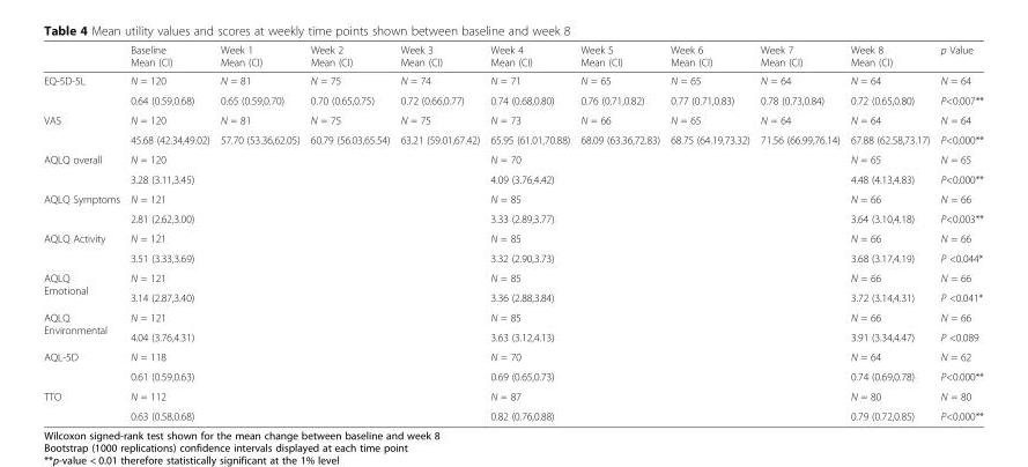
<table><thead><tr><td></td><td>Baseline Mean (CI)</td><td>Week 1 Mean (CI)</td><td>Week 2 Mean (CI)</td><td>Week 3 Mean (CI)</td><td>Week 4 Mean (CI)</td><td>Week 5 Mean (CI)</td><td>Week 6 Mean (CI)</td><td>Week 7 Mean (CI)</td><td>Week 8 Mean (CI)</td><td>p Value</td></tr></thead><tbody><tr><td rowspan="2">EQ-5D-5L</td><td>N = 120</td><td>N = 81</td><td>N = 75</td><td>N = 74</td><td>N = 71</td><td>N = 65</td><td>N = 65</td><td>N = 64</td><td>N = 64</td><td>N = 64</td></tr><tr><td>0.64 (0.59,0.68)</td><td>0.65 (0.59,0.70)</td><td>0.70 (0.65,0.75)</td><td>0.72 (0.66,0.77)</td><td>0.74 (0.68,0.80)</td><td>0.76 (0.71,0.82)</td><td>0.77 (0.71,0.83)</td><td>0.78 (0.73,0.84)</td><td>0.72 (0.65,0.80)</td><td>P&lt;0.007**</td></tr><tr><td rowspan="2">VAS</td><td>N = 120</td><td>N = 81</td><td>N = 75</td><td>N = 75</td><td>N = 73</td><td>N = 66</td><td>N = 65</td><td>N = 64</td><td>N = 64</td><td>N = 64</td></tr><tr><td>45.68 (42.34,49.02)</td><td>57.70 (53.36,62.05)</td><td>60.79 (56.03,65.54)</td><td>63.21 (59.01,67.42)</td><td>65.95 (61.01,70.88)</td><td>68.09 (63.36,72.83)</td><td>68.75 (64.19,73.32)</td><td>71.56 (66.99,76.14)</td><td>67.88 (62.58,73.17)</td><td>P&lt;0.000**</td></tr><tr><td rowspan="2">AQLQ overall</td><td>N = 120</td><td></td><td></td><td></td><td>N = 70</td><td></td><td></td><td></td><td>N = 65</td><td>N = 65</td></tr><tr><td>3.28 (3.11,3.45)</td><td></td><td></td><td></td><td>4.09 (3.76,4.42)</td><td></td><td></td><td></td><td>4.48 (4.13,4.83)</td><td>P&lt;0.000**</td></tr><tr><td rowspan="2">AQLQ Symptoms</td><td>N = 121</td><td></td><td></td><td></td><td>N = 85</td><td></td><td></td><td></td><td>N = 66</td><td>N = 66</td></tr><tr><td>2.81 (2.62,3.00)</td><td></td><td></td><td></td><td>3.33 (2.89,3.77)</td><td></td><td></td><td></td><td>3.64 (3.10,4.18)</td><td>P&lt;0.003**</td></tr><tr><td rowspan="2">AQLQ Activity</td><td>N = 121</td><td></td><td></td><td></td><td>N = 85</td><td></td><td></td><td></td><td>N = 66</td><td>N = 66</td></tr><tr><td>3.51 (3.33,3.69)</td><td></td><td></td><td></td><td>3.32 (2.90,3.73)</td><td></td><td></td><td></td><td>3.68 (3.17,4.19)</td><td>P &lt;0.044*</td></tr><tr><td rowspan="2">AQLQ Emotional</td><td>N = 121</td><td></td><td></td><td></td><td>N = 85</td><td></td><td></td><td></td><td>N = 66</td><td>N = 66</td></tr><tr><td>3.14 (2.87,3.40)</td><td></td><td></td><td></td><td>3.36 (2.88,3.84)</td><td></td><td></td><td></td><td>3.72 (3.14,4.31)</td><td>P &lt;0.041*</td></tr><tr><td rowspan="2">AQLQ Environmental</td><td>N = 121</td><td></td><td></td><td></td><td>N = 85</td><td></td><td></td><td></td><td>N = 66</td><td>N = 66</td></tr><tr><td>4.04 (3.76,4.31)</td><td></td><td></td><td></td><td>3.63 (3.12,4.13)</td><td></td><td></td><td></td><td>3.91 (3.34,4.47)</td><td>P &lt;0.089</td></tr><tr><td rowspan="2">AQL-5D</td><td>N = 118</td><td></td><td></td><td></td><td>N = 70</td><td></td><td></td><td></td><td>N = 64</td><td>N = 62</td></tr><tr><td>0.61 (0.59,0.63)</td><td></td><td></td><td></td><td>0.69 (0.65,0.73)</td><td></td><td></td><td></td><td>0.74 (0.69,0.78)</td><td>P&lt;0.000**</td></tr><tr><td rowspan="2">TTO</td><td>N = 112</td><td></td><td></td><td></td><td>N = 87</td><td></td><td></td><td></td><td>N = 80</td><td>N = 80</td></tr><tr><td>0.63 (0.58,0.68)</td><td></td><td></td><td></td><td>0.82 (0.76,0.88)</td><td></td><td></td><td></td><td>0.79 (0.72,0.85)</td><td>P&lt;0.000**</td></tr></tbody></table>